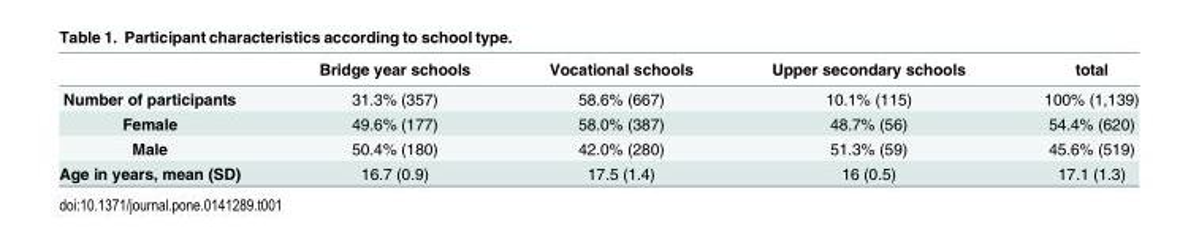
<table><thead><tr><td></td><td>Bridge year schools</td><td>Vocational schools</td><td>Upper secondary schools</td><td>total</td></tr></thead><tbody><tr><td>Number of participants</td><td>31.3% (357)</td><td>58.6% (667)</td><td>10.1% (115)</td><td>100% (1,139)</td></tr><tr><td>Female</td><td>49.6% (177)</td><td>58.0% (387)</td><td>48.7% (56)</td><td>54.4% (620)</td></tr><tr><td>Male</td><td>50.4% (180)</td><td>42.0% (280)</td><td>51.3% (59)</td><td>45.6% (519)</td></tr><tr><td>Age in years, mean (SD)</td><td>16.7 (0.9)</td><td>17.5 (1.4)</td><td>16 (0.5)</td><td>17.1 (1.3)</td></tr></tbody></table>